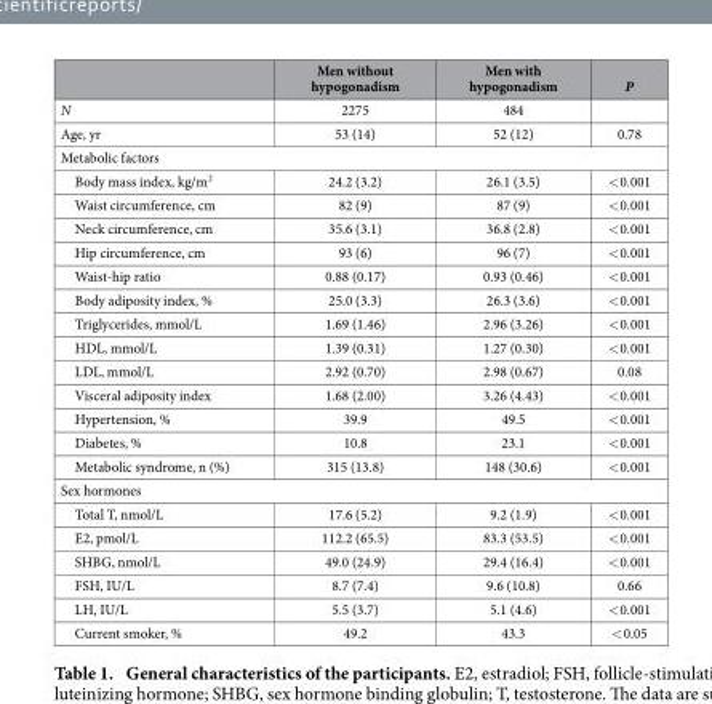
<table><thead><tr><td></td><td>Men without hypogonadism</td><td>Men with hypogonadism</td><td>P</td></tr></thead><tbody><tr><td>N</td><td>2275</td><td>484</td><td></td></tr><tr><td>Age, yr</td><td>53 (14)</td><td>52 (12)</td><td>0.78</td></tr><tr><td colspan="4">Metabolic factors</td></tr><tr><td>Body mass index, kg/m<sup>2</sup></td><td>24.2 (3.2)</td><td>26.1 (3.5)</td><td>&lt; 0.001</td></tr><tr><td>Waist circumference, cm</td><td>82 (9)</td><td>87 (9)</td><td>&lt; 0.001</td></tr><tr><td>Neck circumference, cm</td><td>35.6 (3.1)</td><td>36.8 (2.8)</td><td>&lt; 0.001</td></tr><tr><td>Hip circumference, cm</td><td>93 (6)</td><td>96 (7)</td><td>&lt; 0.001</td></tr><tr><td>Waist-hip ratio</td><td>0.88 (0.17)</td><td>0.93 (0.46)</td><td>&lt; 0.001</td></tr><tr><td>Body adiposity index, %</td><td>25.0 (3.3)</td><td>26.3 (3.6)</td><td>&lt; 0.001</td></tr><tr><td>Triglycerides, mmol/L</td><td>1.69 (1.46)</td><td>2.96 (3.26)</td><td>&lt; 0.001</td></tr><tr><td>HDL, mmol/L</td><td>1.39 (0.31)</td><td>1.27 (0.30)</td><td>&lt; 0.001</td></tr><tr><td>LDL, mmol/L</td><td>2.92 (0.70)</td><td>2.98 (0.67)</td><td>0.08</td></tr><tr><td>Visceral adiposity index</td><td>1.68 (2.00)</td><td>3.26 (4.43)</td><td>&lt; 0.001</td></tr><tr><td>Hypertension, %</td><td>39.9</td><td>49.5</td><td>&lt; 0.001</td></tr><tr><td>Diabetes, %</td><td>10.8</td><td>23.1</td><td>&lt; 0.001</td></tr><tr><td>Metabolic syndrome, n (%)</td><td>315 (13.8)</td><td>148 (30.6)</td><td>&lt; 0.001</td></tr><tr><td colspan="4">Sex hormones</td></tr><tr><td>Total T, nmol/L</td><td>17.6 (5.2)</td><td>9.2 (1.9)</td><td>&lt; 0.001</td></tr><tr><td>E2, pmol/L</td><td>112.2 (65.5)</td><td>83.3 (53.5)</td><td>&lt; 0.001</td></tr><tr><td>SHBG, nmol/L</td><td>49.0 (24.9)</td><td>29.4 (16.4)</td><td>&lt; 0.001</td></tr><tr><td>FSH, IU/L</td><td>8.7 (7.4)</td><td>9.6 (10.8)</td><td>0.66</td></tr><tr><td>LH, IU/L</td><td>5.5 (3.7)</td><td>5.1 (4.6)</td><td>&lt; 0.001</td></tr><tr><td>Current smoker, %</td><td>49.2</td><td>43.3</td><td>&lt; 0.05</td></tr></tbody></table>